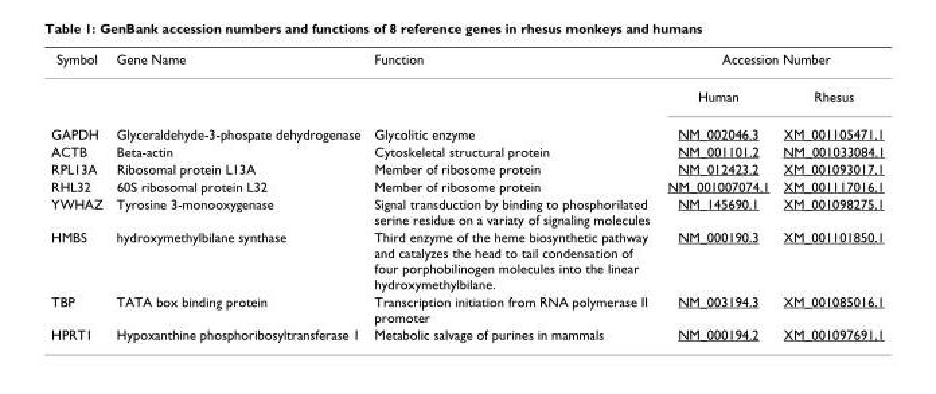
<table><thead><tr><td rowspan="2">Symbol</td><td rowspan="2">Gene Name</td><td rowspan="2">Function</td><td colspan="2">Accession Number</td></tr><tr><td>Human</td><td>Rhesus</td></tr></thead><tbody><tr><td>GAPDH</td><td>Glyceraldehyde-3-phospate dehydrogenase</td><td>Glycolitic enzyme</td><td>NM_002046.3</td><td>XM_001105471.1</td></tr><tr><td>ACTB</td><td>Beta-actin</td><td>Cytoskeletal structural protein</td><td>NM_001101.2</td><td>NM_001033084.1</td></tr><tr><td>RPL13A</td><td>Ribosomal protein L13A</td><td>Member of ribosome protein</td><td>NM_012423.2</td><td>XM_001093017.1</td></tr><tr><td>RHL32</td><td>60S ribosomal protein L32</td><td>Member of ribosome protein</td><td>NM_001007074.1</td><td>XM_001117016.1</td></tr><tr><td>YWHAZ</td><td>Tyrosine 3-monooxygenase</td><td>Signal transduction by binding to phosphorilated serine residue on a variaty of signaling molecules</td><td>NM_145690.1</td><td>XM_001098275.1</td></tr><tr><td>HMBS</td><td>hydroxymethylbilane synthase</td><td>Third enzyme of the heme biosynthetic pathway and catalyzes the head to tail condensation of four porphobilinogen molecules into the linear hydroxymethylbilane.</td><td>NM_000190.3</td><td>XM_001101850.1</td></tr><tr><td>TBP</td><td>TATA box binding protein</td><td>Transcription initiation from RNA polymerase II promoter</td><td>NM_003194.3</td><td>XM_001085016.1</td></tr><tr><td>HPRT1</td><td>Hypoxanthine phosphoribosyltransferase 1</td><td>Metabolic salvage of purines in mammals</td><td>NM_000194.2</td><td>XM_001097691.1</td></tr></tbody></table>